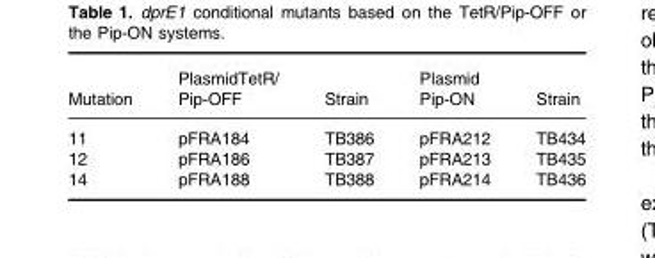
<table><thead><tr><td>Mutation</td><td>PlasmidTetR/ Pip-OFF</td><td>Strain</td><td>Plasmid Pip-ON</td><td>Strain</td></tr></thead><tbody><tr><td>11</td><td>pFRA184</td><td>TB386</td><td>pFRA212</td><td>TB434</td></tr><tr><td>12</td><td>pFRA186</td><td>TB387</td><td>pFRA213</td><td>TB435</td></tr><tr><td>14</td><td>pFRA188</td><td>TB388</td><td>pFRA214</td><td>TB436</td></tr></tbody></table>